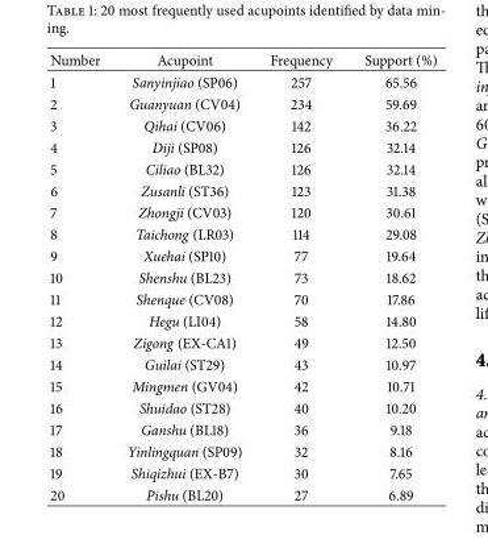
<table><thead><tr><td>Number</td><td>Acupoint</td><td>Frequency</td><td>Support (%)</td></tr></thead><tbody><tr><td>1</td><td>Sanyinjiao (SP06)</td><td>257</td><td>65.56</td></tr><tr><td>2</td><td>Guanyuan (CV04)</td><td>234</td><td>59.69</td></tr><tr><td>3</td><td>Qihai (CV06)</td><td>142</td><td>36.22</td></tr><tr><td>4</td><td>Diji (SP08)</td><td>126</td><td>32.14</td></tr><tr><td>5</td><td>Ciliao (BL32)</td><td>126</td><td>32.14</td></tr><tr><td>6</td><td>Zusanli (ST36)</td><td>123</td><td>31.38</td></tr><tr><td>7</td><td>Zhongji (CV03)</td><td>120</td><td>30.61</td></tr><tr><td>8</td><td>Taichong (LR03)</td><td>114</td><td>29.08</td></tr><tr><td>9</td><td>Xuehai (SP10)</td><td>77</td><td>19.64</td></tr><tr><td>10</td><td>Shenshu (BL23)</td><td>73</td><td>18.62</td></tr><tr><td>11</td><td>Shenque (CV08)</td><td>70</td><td>17.86</td></tr><tr><td>12</td><td>Hegu (LI04)</td><td>58</td><td>14.80</td></tr><tr><td>13</td><td>Zigong (EX-CA1)</td><td>49</td><td>12.50</td></tr><tr><td>14</td><td>Guilai (ST29)</td><td>43</td><td>10.97</td></tr><tr><td>15</td><td>Mingmen (GV04)</td><td>42</td><td>10.71</td></tr><tr><td>16</td><td>Shuidao (ST28)</td><td>40</td><td>10.20</td></tr><tr><td>17</td><td>Ganshu (BL18)</td><td>36</td><td>9.18</td></tr><tr><td>18</td><td>Yinlingquan (SP09)</td><td>32</td><td>8.16</td></tr><tr><td>19</td><td>Shiqizhui (EX-B7)</td><td>30</td><td>7.65</td></tr><tr><td>20</td><td>Pishu (BL20)</td><td>27</td><td>6.89</td></tr></tbody></table>